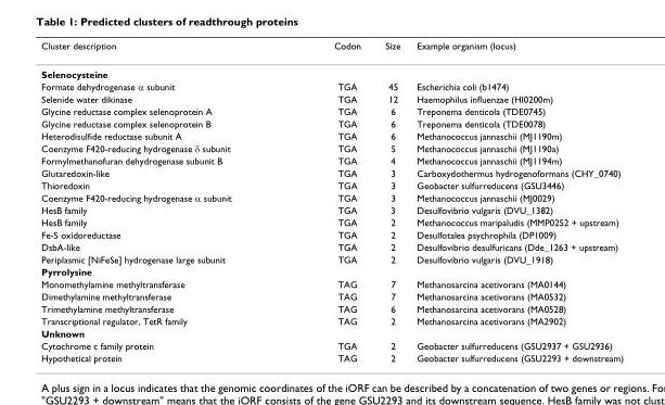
<table><thead><tr><td>Cluster description</td><td>Codon</td><td>Size</td><td>Example organism (locus)</td></tr></thead><tbody><tr><td colspan="4">Selenocysteine</td></tr><tr><td>Formate dehydrogenase α subunit</td><td>TGA</td><td>45</td><td>Escherichia coli (b1474)</td></tr><tr><td>Selenide water dikinase</td><td>TGA</td><td>12</td><td>Haemophilus influenzae (HI0200m)</td></tr><tr><td>Glycine reductase complex selenoprotein A</td><td>TGA</td><td>6</td><td>Treponema denticola (TDE0745)</td></tr><tr><td>Glycine reductase complex selenoprotein B</td><td>TGA</td><td>6</td><td>Treponema denticola (TDE0078)</td></tr><tr><td>Heterodisulfide reductase subunit A</td><td>TGA</td><td>6</td><td>Methanococcus jannaschii (MJ1190m)</td></tr><tr><td>Coenzyme F420-reducing hydrogenase δ subunit</td><td>TGA</td><td>5</td><td>Methanococcus jannaschii (MJ1190a)</td></tr><tr><td>Formylmethanofuran dehydrogenase subunit B</td><td>TGA</td><td>4</td><td>Methanococcus jannaschii (MJ1194m)</td></tr><tr><td>Glutaredoxin-like</td><td>TGA</td><td>3</td><td>Carboxydothermus hydrogenoformans (CHY_0740)</td></tr><tr><td>Thioredoxin</td><td>TGA</td><td>3</td><td>Geobacter sulfurreducens (GSU3446)</td></tr><tr><td>Coenzyme F420-reducing hydrogenase α subunit</td><td>TGA</td><td>3</td><td>Methanococcus jannaschii (MJ0029)</td></tr><tr><td>HesB family</td><td>TGA</td><td>3</td><td>Desulfovibrio vulgaris (DVU_1382)</td></tr><tr><td>HesB family</td><td>TGA</td><td>2</td><td>Methanococcus maripaludis (MMP0252 + upstream)</td></tr><tr><td>Fe-S oxidoreductase</td><td>TGA</td><td>2</td><td>Desulfotalea psychrophila (DP1009)</td></tr><tr><td>DsbA-like</td><td>TGA</td><td>2</td><td>Desulfovibrio desulfuricans (Dde_1263 + upstream)</td></tr><tr><td>Periplasmic [NiFeSe] hydrogenase large subunit</td><td>TGA</td><td>2</td><td>Desulfovibrio vulgaris (DVU_1918)</td></tr><tr><td colspan="4">Pyrrolysine</td></tr><tr><td>Monomethylamine methyltransferase</td><td>TAG</td><td>7</td><td>Methanosarcina acetivorans (MA0144)</td></tr><tr><td>Dimethylamine methyltransferase</td><td>TAG</td><td>7</td><td>Methanosarcina acetivorans (MA0532)</td></tr><tr><td>Trimethylamine methyltransferase</td><td>TAG</td><td>6</td><td>Methanosarcina acetivorans (MA0528)</td></tr><tr><td>Transcriptional regulator, TetR family</td><td>TAG</td><td>2</td><td>Methanosarcina acetivorans (MA2902)</td></tr><tr><td colspan="4">Unknown</td></tr><tr><td>Cytochrome c family protein</td><td>TGA</td><td>2</td><td>Geobacter sulfurreducens (GSU2937 + GSU2936)</td></tr><tr><td>Hypothetical protein</td><td>TAG</td><td>2</td><td>Geobacter sulfurreducens (GSU2293 + downstream)</td></tr></tbody></table>